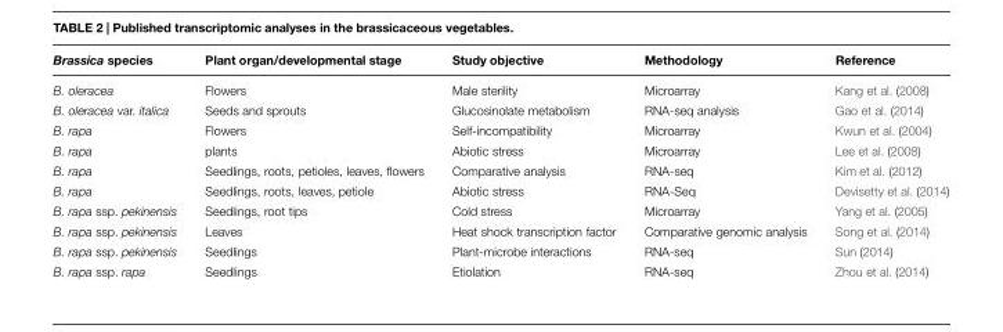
<table><thead><tr><td>Brassica species</td><td>Plant organ/developmental stage</td><td>Study objective</td><td>Methodology</td><td>Reference</td></tr></thead><tbody><tr><td>B. oleracea</td><td>Flowers</td><td>Male sterility</td><td>Microarray</td><td>Kang et al. (2008)</td></tr><tr><td>B. oleracea var. italica</td><td>Seeds and sprouts</td><td>Glucosinolate metabolism</td><td>RNA-seq analysis</td><td>Gao et al. (2014)</td></tr><tr><td>B. rapa</td><td>Flowers</td><td>Self-incompatibility</td><td>Microarray</td><td>Kwun et al. (2004)</td></tr><tr><td>B. rapa</td><td>plants</td><td>Abiotic stress</td><td>Microarray</td><td>Lee et al. (2008)</td></tr><tr><td>B. rapa</td><td>Seedlings, roots, petioles, leaves, flowers</td><td>Comparative analysis</td><td>RNA-seq</td><td>Kim et al. (2012)</td></tr><tr><td>B. rapa</td><td>Seedlings, roots, leaves, petiole</td><td>Abiotic stress</td><td>RNA-Seq</td><td>Devisetty et al. (2014)</td></tr><tr><td>B. rapa ssp. pekinensis</td><td>Seedlings, root tips</td><td>Cold stress</td><td>Microarray</td><td>Yang et al. (2005)</td></tr><tr><td>B. rapa ssp. pekinensis</td><td>Leaves</td><td>Heat shock transcription factor</td><td>Comparative genomic analysis</td><td>Song et al. (2014)</td></tr><tr><td>B. rapa ssp. pekinensis</td><td>Seedlings</td><td>Plant-microbe interactions</td><td>RNA-seq</td><td>Sun (2014)</td></tr><tr><td>B. rapa ssp. rapa</td><td>Seedlings</td><td>Etiolation</td><td>RNA-seq</td><td>Zhou et al. (2014)</td></tr></tbody></table>